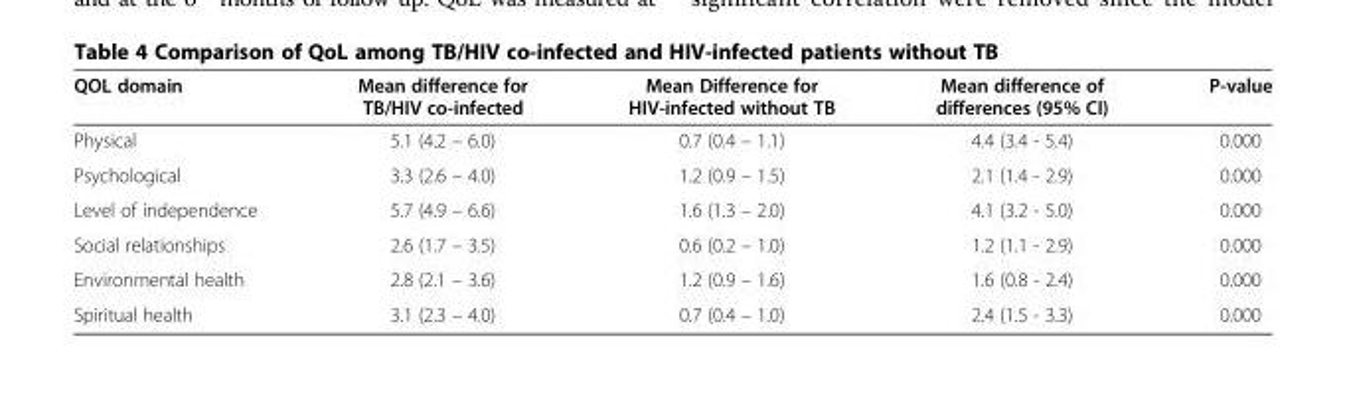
<table><thead><tr><td>QOL domain</td><td>Mean difference for TB/HIV co-infected</td><td>Mean Difference for HIV-infected without TB</td><td>Mean difference of differences (95% CI)</td><td>P-value</td></tr></thead><tbody><tr><td>Physical</td><td>5.1 (4.2 – 6.0)</td><td>0.7 (0.4 – 1.1)</td><td>4.4 (3.4 - 5.4)</td><td>0.000</td></tr><tr><td>Psychological</td><td>3.3 (2.6 – 4.0)</td><td>1.2 (0.9 – 1.5)</td><td>2.1 (1.4 - 2.9)</td><td>0.000</td></tr><tr><td>Level of independence</td><td>5.7 (4.9 – 6.6)</td><td>1.6 (1.3 – 2.0)</td><td>4.1 (3.2 - 5.0)</td><td>0.000</td></tr><tr><td>Social relationships</td><td>2.6 (1.7 – 3.5)</td><td>0.6 (0.2 – 1.0)</td><td>1.2 (1.1 - 2.9)</td><td>0.000</td></tr><tr><td>Environmental health</td><td>2.8 (2.1 – 3.6)</td><td>1.2 (0.9 – 1.6)</td><td>1.6 (0.8 - 2.4)</td><td>0.000</td></tr><tr><td>Spiritual health</td><td>3.1 (2.3 – 4.0)</td><td>0.7 (0.4 – 1.0)</td><td>2.4 (1.5 - 3.3)</td><td>0.000</td></tr></tbody></table>